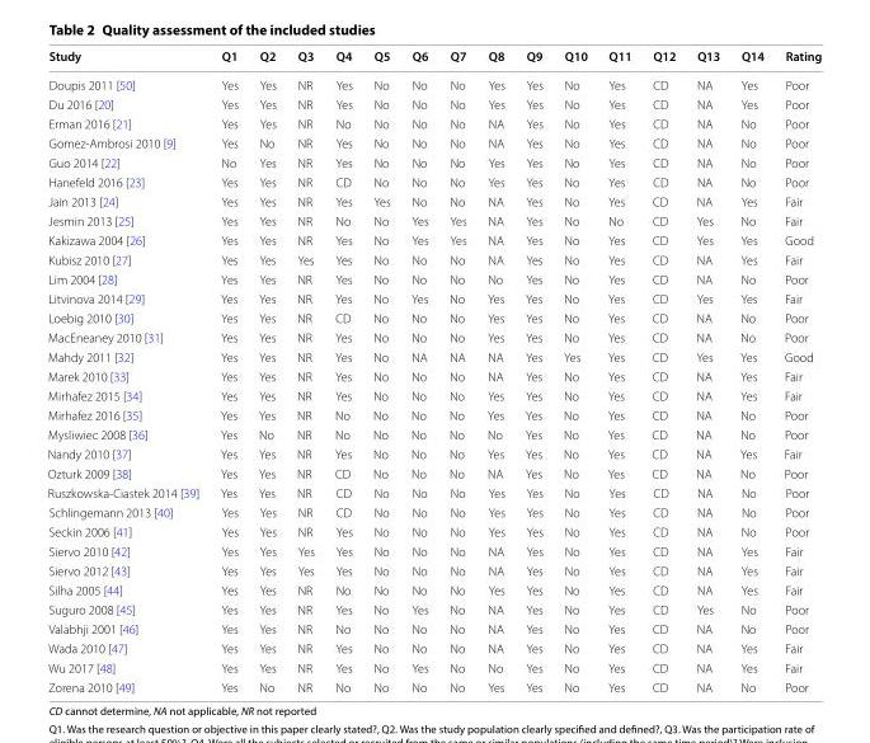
<table><thead><tr><td>Study</td><td>Q1</td><td>Q2</td><td>Q3</td><td>Q4</td><td>Q5</td><td>Q6</td><td>Q7</td><td>Q8</td><td>Q9</td><td>Q10</td><td>Q11</td><td>Q12</td><td>Q13</td><td>Q14</td><td>Rating</td></tr></thead><tbody><tr><td>Doupis 2011 [50]</td><td>Yes</td><td>Yes</td><td>NR</td><td>Yes</td><td>No</td><td>No</td><td>No</td><td>Yes</td><td>Yes</td><td>No</td><td>Yes</td><td>CD</td><td>NA</td><td>Yes</td><td>Poor</td></tr><tr><td>Du 2016 [20]</td><td>Yes</td><td>Yes</td><td>NR</td><td>Yes</td><td>No</td><td>No</td><td>No</td><td>Yes</td><td>Yes</td><td>No</td><td>Yes</td><td>CD</td><td>NA</td><td>Yes</td><td>Poor</td></tr><tr><td>Erman 2016 [21]</td><td>Yes</td><td>Yes</td><td>NR</td><td>No</td><td>No</td><td>No</td><td>No</td><td>NA</td><td>Yes</td><td>No</td><td>Yes</td><td>CD</td><td>NA</td><td>No</td><td>Poor</td></tr><tr><td>Gomez‑Ambrosi 2010 [9]</td><td>Yes</td><td>No</td><td>NR</td><td>Yes</td><td>No</td><td>No</td><td>No</td><td>NA</td><td>Yes</td><td>No</td><td>Yes</td><td>CD</td><td>NA</td><td>No</td><td>Poor</td></tr><tr><td>Guo 2014 [22]</td><td>No</td><td>Yes</td><td>NR</td><td>Yes</td><td>No</td><td>No</td><td>No</td><td>Yes</td><td>Yes</td><td>No</td><td>Yes</td><td>CD</td><td>NA</td><td>No</td><td>Poor</td></tr><tr><td>Hanefeld 2016 [23]</td><td>Yes</td><td>Yes</td><td>NR</td><td>CD</td><td>No</td><td>No</td><td>No</td><td>Yes</td><td>Yes</td><td>No</td><td>Yes</td><td>CD</td><td>NA</td><td>No</td><td>Poor</td></tr><tr><td>Jain 2013 [24]</td><td>Yes</td><td>Yes</td><td>NR</td><td>Yes</td><td>Yes</td><td>No</td><td>No</td><td>NA</td><td>Yes</td><td>No</td><td>Yes</td><td>CD</td><td>NA</td><td>Yes</td><td>Fair</td></tr><tr><td>Jesmin 2013 [25]</td><td>Yes</td><td>Yes</td><td>NR</td><td>No</td><td>No</td><td>Yes</td><td>Yes</td><td>NA</td><td>Yes</td><td>No</td><td>No</td><td>CD</td><td>Yes</td><td>No</td><td>Fair</td></tr><tr><td>Kakizawa 2004 [26]</td><td>Yes</td><td>Yes</td><td>NR</td><td>Yes</td><td>No</td><td>Yes</td><td>Yes</td><td>NA</td><td>Yes</td><td>No</td><td>Yes</td><td>CD</td><td>Yes</td><td>Yes</td><td>Good</td></tr><tr><td>Kubisz 2010 [27]</td><td>Yes</td><td>Yes</td><td>Yes</td><td>Yes</td><td>No</td><td>No</td><td>No</td><td>NA</td><td>Yes</td><td>No</td><td>Yes</td><td>CD</td><td>NA</td><td>Yes</td><td>Fair</td></tr><tr><td>Lim 2004 [28]</td><td>Yes</td><td>Yes</td><td>NR</td><td>Yes</td><td>No</td><td>No</td><td>No</td><td>No</td><td>Yes</td><td>No</td><td>Yes</td><td>CD</td><td>NA</td><td>No</td><td>Poor</td></tr><tr><td>Litvinova 2014 [29]</td><td>Yes</td><td>Yes</td><td>NR</td><td>Yes</td><td>No</td><td>Yes</td><td>No</td><td>Yes</td><td>Yes</td><td>No</td><td>Yes</td><td>CD</td><td>Yes</td><td>Yes</td><td>Fair</td></tr><tr><td>Loebig 2010 [30]</td><td>Yes</td><td>Yes</td><td>NR</td><td>CD</td><td>No</td><td>No</td><td>No</td><td>Yes</td><td>Yes</td><td>No</td><td>Yes</td><td>CD</td><td>NA</td><td>No</td><td>Poor</td></tr><tr><td>MacEneaney 2010 [31]</td><td>Yes</td><td>Yes</td><td>NR</td><td>Yes</td><td>No</td><td>No</td><td>No</td><td>Yes</td><td>Yes</td><td>No</td><td>Yes</td><td>CD</td><td>NA</td><td>No</td><td>Poor</td></tr><tr><td>Mahdy 2011 [32]</td><td>Yes</td><td>Yes</td><td>NR</td><td>Yes</td><td>No</td><td>NA</td><td>NA</td><td>NA</td><td>Yes</td><td>Yes</td><td>Yes</td><td>CD</td><td>Yes</td><td>Yes</td><td>Good</td></tr><tr><td>Marek 2010 [33]</td><td>Yes</td><td>Yes</td><td>NR</td><td>Yes</td><td>No</td><td>No</td><td>No</td><td>NA</td><td>Yes</td><td>No</td><td>Yes</td><td>CD</td><td>NA</td><td>Yes</td><td>Fair</td></tr><tr><td>Mirhafez 2015 [34]</td><td>Yes</td><td>Yes</td><td>NR</td><td>Yes</td><td>No</td><td>No</td><td>No</td><td>Yes</td><td>Yes</td><td>No</td><td>Yes</td><td>CD</td><td>NA</td><td>Yes</td><td>Fair</td></tr><tr><td>Mirhafez 2016 [35]</td><td>Yes</td><td>Yes</td><td>NR</td><td>No</td><td>No</td><td>No</td><td>No</td><td>Yes</td><td>Yes</td><td>No</td><td>Yes</td><td>CD</td><td>NA</td><td>No</td><td>Poor</td></tr><tr><td>Mysliwiec 2008 [36]</td><td>Yes</td><td>No</td><td>NR</td><td>No</td><td>No</td><td>No</td><td>No</td><td>No</td><td>Yes</td><td>No</td><td>Yes</td><td>CD</td><td>NA</td><td>No</td><td>Poor</td></tr><tr><td>Nandy 2010 [37]</td><td>Yes</td><td>Yes</td><td>NR</td><td>Yes</td><td>No</td><td>No</td><td>No</td><td>Yes</td><td>Yes</td><td>No</td><td>Yes</td><td>CD</td><td>NA</td><td>Yes</td><td>Fair</td></tr><tr><td>Ozturk 2009 [38]</td><td>Yes</td><td>Yes</td><td>NR</td><td>CD</td><td>No</td><td>No</td><td>No</td><td>NA</td><td>Yes</td><td>No</td><td>Yes</td><td>CD</td><td>NA</td><td>No</td><td>Poor</td></tr><tr><td>Ruszkowska‑Ciastek 2014 [39]</td><td>Yes</td><td>Yes</td><td>NR</td><td>CD</td><td>No</td><td>No</td><td>No</td><td>Yes</td><td>Yes</td><td>No</td><td>Yes</td><td>CD</td><td>NA</td><td>No</td><td>Poor</td></tr><tr><td>Schlingemann 2013 [40]</td><td>Yes</td><td>Yes</td><td>NR</td><td>CD</td><td>No</td><td>No</td><td>No</td><td>Yes</td><td>Yes</td><td>No</td><td>Yes</td><td>CD</td><td>NA</td><td>No</td><td>Poor</td></tr><tr><td>Seckin 2006 [41]</td><td>Yes</td><td>Yes</td><td>NR</td><td>Yes</td><td>No</td><td>No</td><td>No</td><td>Yes</td><td>Yes</td><td>No</td><td>Yes</td><td>CD</td><td>NA</td><td>No</td><td>Poor</td></tr><tr><td>Siervo 2010 [42]</td><td>Yes</td><td>Yes</td><td>Yes</td><td>Yes</td><td>No</td><td>No</td><td>No</td><td>NA</td><td>Yes</td><td>No</td><td>Yes</td><td>CD</td><td>NA</td><td>Yes</td><td>Fair</td></tr><tr><td>Siervo 2012 [43]</td><td>Yes</td><td>Yes</td><td>Yes</td><td>Yes</td><td>No</td><td>No</td><td>No</td><td>NA</td><td>Yes</td><td>No</td><td>Yes</td><td>CD</td><td>NA</td><td>Yes</td><td>Fair</td></tr><tr><td>Silha 2005 [44]</td><td>Yes</td><td>Yes</td><td>NR</td><td>No</td><td>No</td><td>No</td><td>No</td><td>Yes</td><td>Yes</td><td>No</td><td>Yes</td><td>CD</td><td>NA</td><td>Yes</td><td>Fair</td></tr><tr><td>Suguro 2008 [45]</td><td>Yes</td><td>Yes</td><td>NR</td><td>Yes</td><td>No</td><td>Yes</td><td>No</td><td>NA</td><td>Yes</td><td>No</td><td>Yes</td><td>CD</td><td>Yes</td><td>No</td><td>Poor</td></tr><tr><td>Valabhji 2001 [46]</td><td>Yes</td><td>Yes</td><td>NR</td><td>No</td><td>No</td><td>No</td><td>No</td><td>NA</td><td>Yes</td><td>No</td><td>Yes</td><td>CD</td><td>NA</td><td>No</td><td>Poor</td></tr><tr><td>Wada 2010 [47]</td><td>Yes</td><td>Yes</td><td>NR</td><td>Yes</td><td>No</td><td>No</td><td>No</td><td>NA</td><td>Yes</td><td>No</td><td>Yes</td><td>CD</td><td>NA</td><td>Yes</td><td>Fair</td></tr><tr><td>Wu 2017 [48]</td><td>Yes</td><td>Yes</td><td>NR</td><td>Yes</td><td>No</td><td>Yes</td><td>No</td><td>No</td><td>Yes</td><td>No</td><td>Yes</td><td>CD</td><td>NA</td><td>Yes</td><td>Fair</td></tr><tr><td>Zorena 2010 [49]</td><td>Yes</td><td>No</td><td>NR</td><td>No</td><td>No</td><td>No</td><td>No</td><td>Yes</td><td>Yes</td><td>No</td><td>Yes</td><td>CD</td><td>NA</td><td>No</td><td>Poor</td></tr></tbody></table>